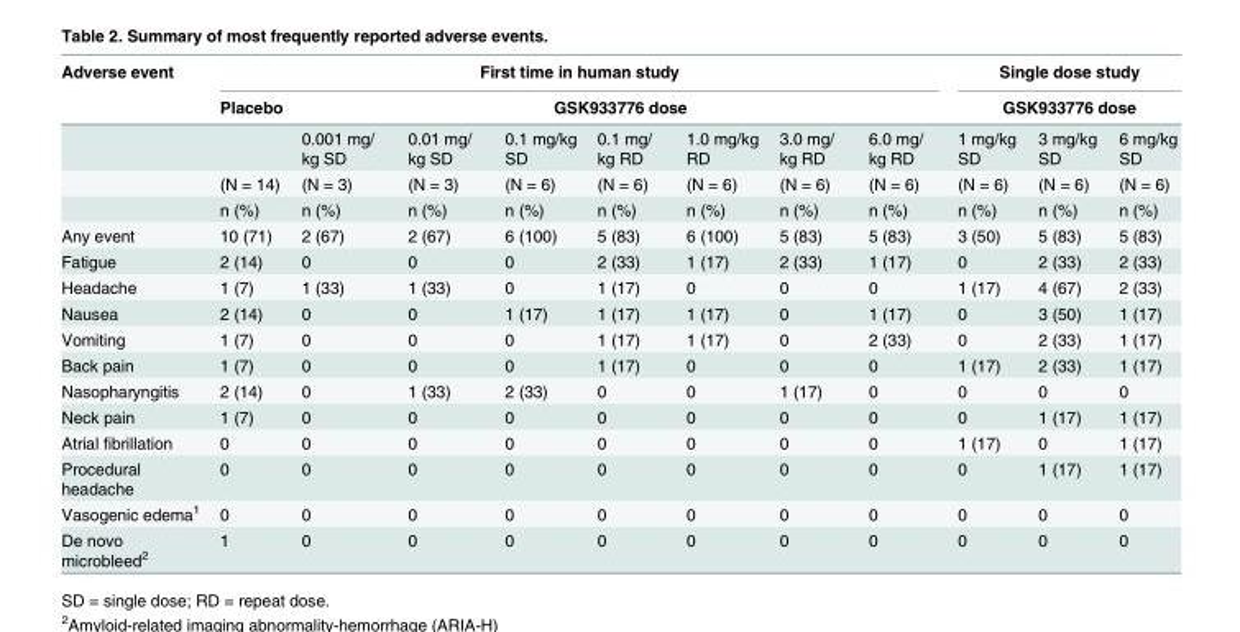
<table><thead><tr><td rowspan="3">Adverse event</td><td colspan="8">First time in human study</td><td rowspan="2" colspan="3">Single dose study GSK933776 dose</td></tr><tr><td rowspan="2">Placebo</td><td colspan="7">GSK933776 dose</td></tr><tr><td>0.001 mg/ kg SD</td><td>0.01 mg/ kg SD</td><td>0.1 mg/kg SD</td><td>0.1 mg/ kg RD</td><td>1.0 mg/kg RD</td><td>3.0 mg/ kg RD</td><td>6.0 mg/ kg RD</td><td>1 mg/kg SD</td><td>3 mg/kg SD</td><td>6 mg/kg SD</td></tr></thead><tbody><tr><td></td><td>(N = 14)</td><td>(N = 3)</td><td>(N = 3)</td><td>(N = 6)</td><td>(N = 6)</td><td>(N = 6)</td><td>(N = 6)</td><td>(N = 6)</td><td>(N = 6)</td><td>(N = 6)</td><td>(N = 6)</td></tr><tr><td></td><td>n (%)</td><td>n (%)</td><td>n (%)</td><td>n (%)</td><td>n (%)</td><td>n (%)</td><td>n (%)</td><td>n (%)</td><td>n (%)</td><td>n (%)</td><td>n (%)</td></tr><tr><td>Any event</td><td>10 (71)</td><td>2 (67)</td><td>2 (67)</td><td>6 (100)</td><td>5 (83)</td><td>6 (100)</td><td>5 (83)</td><td>5 (83)</td><td>3 (50)</td><td>5 (83)</td><td>5 (83)</td></tr><tr><td>Fatigue</td><td>2 (14)</td><td>0</td><td>0</td><td>0</td><td>2 (33)</td><td>1 (17)</td><td>2 (33)</td><td>1 (17)</td><td>0</td><td>2 (33)</td><td>2 (33)</td></tr><tr><td>Headache</td><td>1 (7)</td><td>1 (33)</td><td>1 (33)</td><td>0</td><td>1 (17)</td><td>0</td><td>0</td><td>0</td><td>1 (17)</td><td>4 (67)</td><td>2 (33)</td></tr><tr><td>Nausea</td><td>2 (14)</td><td>0</td><td>0</td><td>1 (17)</td><td>1 (17)</td><td>1 (17)</td><td>0</td><td>1 (17)</td><td>0</td><td>3 (50)</td><td>1 (17)</td></tr><tr><td>Vomiting</td><td>1 (7)</td><td>0</td><td>0</td><td>0</td><td>1 (17)</td><td>1 (17)</td><td>0</td><td>2 (33)</td><td>0</td><td>2 (33)</td><td>1 (17)</td></tr><tr><td>Back pain</td><td>1 (7)</td><td>0</td><td>0</td><td>0</td><td>1 (17)</td><td>0</td><td>0</td><td>0</td><td>1 (17)</td><td>2 (33)</td><td>1 (17)</td></tr><tr><td>Nasopharyngitis</td><td>2 (14)</td><td>0</td><td>1 (33)</td><td>2 (33)</td><td>0</td><td>0</td><td>1 (17)</td><td>0</td><td>0</td><td>0</td><td>0</td></tr><tr><td>Neck pain</td><td>1 (7)</td><td>0</td><td>0</td><td>0</td><td>0</td><td>0</td><td>0</td><td>0</td><td>0</td><td>1 (17)</td><td>1 (17)</td></tr><tr><td>Atrial fibrillation</td><td>0</td><td>0</td><td>0</td><td>0</td><td>0</td><td>0</td><td>0</td><td>0</td><td>1 (17)</td><td>0</td><td>1 (17)</td></tr><tr><td>Procedural headache</td><td>0</td><td>0</td><td>0</td><td>0</td><td>0</td><td>0</td><td>0</td><td>0</td><td>0</td><td>1 (17)</td><td>1 (17)</td></tr><tr><td>Vasogenic edema<sup>1</sup></td><td>0</td><td>0</td><td>0</td><td>0</td><td>0</td><td>0</td><td>0</td><td>0</td><td>0</td><td>0</td><td>0</td></tr><tr><td>De novo microbleed<sup>2</sup></td><td>1</td><td>0</td><td>0</td><td>0</td><td>0</td><td>0</td><td>0</td><td>0</td><td>0</td><td>0</td><td>0</td></tr></tbody></table>